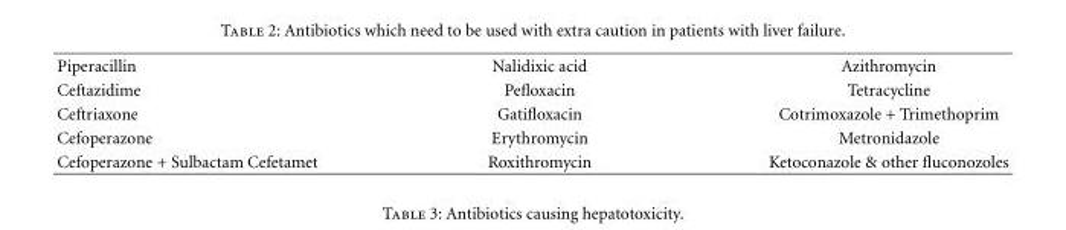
<table><tbody><tr><td>Piperacillin</td><td>Nalidixic acid</td><td>Azithromycin</td></tr><tr><td>Ceftazidime</td><td>Pefloxacin</td><td>Tetracycline</td></tr><tr><td>Ceftriaxone</td><td>Gatifloxacin</td><td>Cotrimoxazole + Trimethoprim</td></tr><tr><td>Cefoperazone</td><td>Erythromycin</td><td>Metronidazole</td></tr><tr><td>Cefoperazone + Sulbactam Cefetamet</td><td>Roxithromycin</td><td>Ketoconazole &amp; other fluconozoles</td></tr></tbody></table>